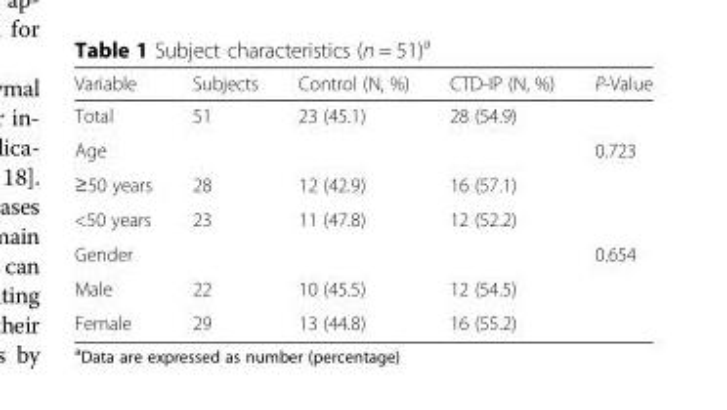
<table><thead><tr><td>Variable</td><td>Subjects</td><td>Control (N, %)</td><td>CTD-IP (N, %)</td><td>P-Value</td></tr></thead><tbody><tr><td>Total</td><td>51</td><td>23 (45.1)</td><td>28 (54.9)</td><td></td></tr><tr><td>Age</td><td></td><td></td><td></td><td>0.723</td></tr><tr><td>≥50 years</td><td>28</td><td>12 (42.9)</td><td>16 (57.1)</td><td></td></tr><tr><td>&lt;50 years</td><td>23</td><td>11 (47.8)</td><td>12 (52.2)</td><td></td></tr><tr><td>Gender</td><td></td><td></td><td></td><td>0.654</td></tr><tr><td>Male</td><td>22</td><td>10 (45.5)</td><td>12 (54.5)</td><td></td></tr><tr><td>Female</td><td>29</td><td>13 (44.8)</td><td>16 (55.2)</td><td></td></tr></tbody></table>